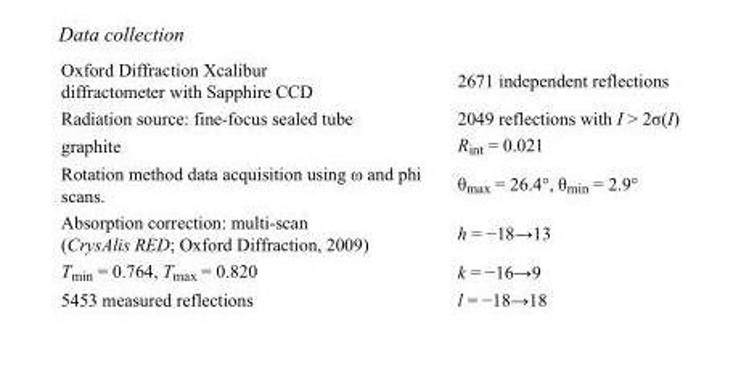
<table><tbody><tr><td>Oxford Diffraction Xcalibur diffractometer with Sapphire CCD</td><td>2671 independent reflections</td></tr><tr><td>Radiation source: fine-focus sealed tube</td><td>2049 reflections with I &gt; 2σ(I)</td></tr><tr><td>graphite</td><td>R<sub>int</sub> = 0.021</td></tr><tr><td>Rotation method data acquisition using ω and phi scans.</td><td>θ<sub>max</sub> = 26.4°, θ<sub>min</sub> = 2.9°</td></tr><tr><td>Absorption correction: multi-scan (CrysAlis RED; Oxford Diffraction, 2009)</td><td>h = −18→13</td></tr><tr><td>T<sub>min</sub> = 0.764, T<sub>max</sub> = 0.820</td><td>k = −16→9</td></tr><tr><td>5453 measured reflections</td><td>l = −18→18</td></tr></tbody></table>